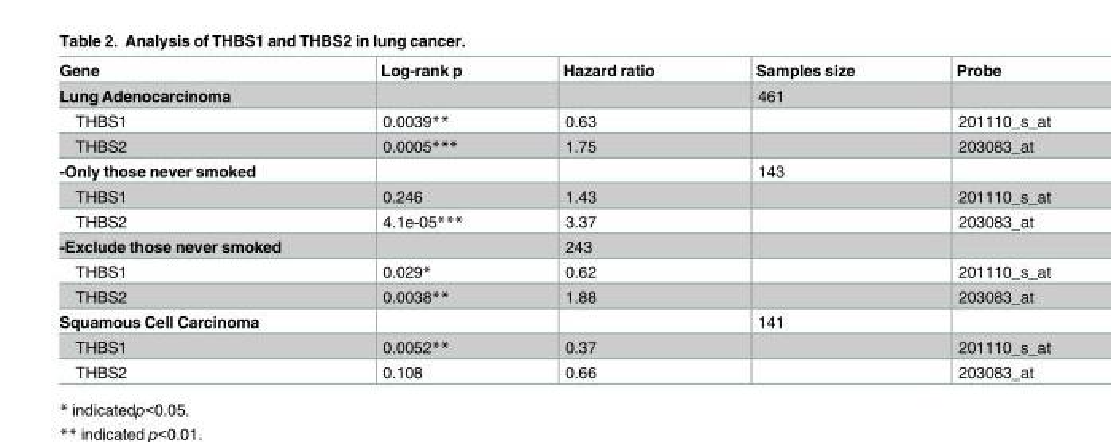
<table><thead><tr><td>Gene</td><td>Log-rank p</td><td>Hazard ratio</td><td>Samples size</td><td>Probe</td></tr></thead><tbody><tr><td>Lung Adenocarcinoma</td><td></td><td></td><td>461</td><td></td></tr><tr><td>THBS1</td><td>0.0039**</td><td>0.63</td><td></td><td>201110_s_at</td></tr><tr><td>THBS2</td><td>0.0005***</td><td>1.75</td><td></td><td>203083_at</td></tr><tr><td>-Only those never smoked</td><td></td><td></td><td>143</td><td></td></tr><tr><td>THBS1</td><td>0.246</td><td>1.43</td><td></td><td>201110_s_at</td></tr><tr><td>THBS2</td><td>4.1e-05***</td><td>3.37</td><td></td><td>203083_at</td></tr><tr><td>-Exclude those never smoked</td><td></td><td>243</td><td></td><td></td></tr><tr><td>THBS1</td><td>0.029*</td><td>0.62</td><td></td><td>201110_s_at</td></tr><tr><td>THBS2</td><td>0.0038**</td><td>1.88</td><td></td><td>203083_at</td></tr><tr><td>Squamous Cell Carcinoma</td><td></td><td></td><td>141</td><td></td></tr><tr><td>THBS1</td><td>0.0052**</td><td>0.37</td><td></td><td>201110_s_at</td></tr><tr><td>THBS2</td><td>0.108</td><td>0.66</td><td></td><td>203083_at</td></tr></tbody></table>